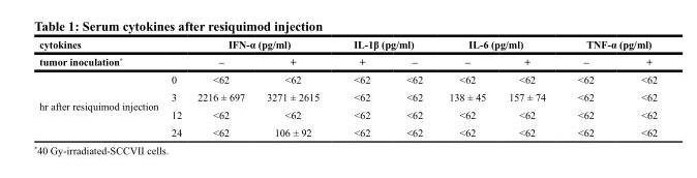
<table><thead><tr><td rowspan="2">cytokines tumor inoculation*</td><td rowspan="2"></td><td colspan="2">IFN-α (pg/ml)</td><td colspan="2">IL-1β (pg/ml)</td><td colspan="2">IL-6 (pg/ml)</td><td colspan="2">TNF-α (pg/ml)</td></tr><tr><td>–</td><td>+</td><td>+</td><td>–</td><td>–</td><td>+</td><td>–</td><td>+</td></tr></thead><tbody><tr><td rowspan="4">hr after resiquimod injection</td><td>0</td><td>&lt;62</td><td>&lt;62</td><td>&lt;62</td><td>&lt;62</td><td>&lt;62</td><td>&lt;62</td><td>&lt;62</td><td>&lt;62</td></tr><tr><td>3</td><td>2216 ± 697</td><td>3271 ± 2615</td><td>&lt;62</td><td>&lt;62</td><td>138 ± 45</td><td>157 ± 74</td><td>&lt;62</td><td>&lt;62</td></tr><tr><td>12</td><td>&lt;62</td><td>&lt;62</td><td>&lt;62</td><td>&lt;62</td><td>&lt;62</td><td>&lt;62</td><td>&lt;62</td><td>&lt;62</td></tr><tr><td>24</td><td>&lt;62</td><td>106 ± 92</td><td>&lt;62</td><td>&lt;62</td><td>&lt;62</td><td>&lt;62</td><td>&lt;62</td><td>&lt;62</td></tr></tbody></table>